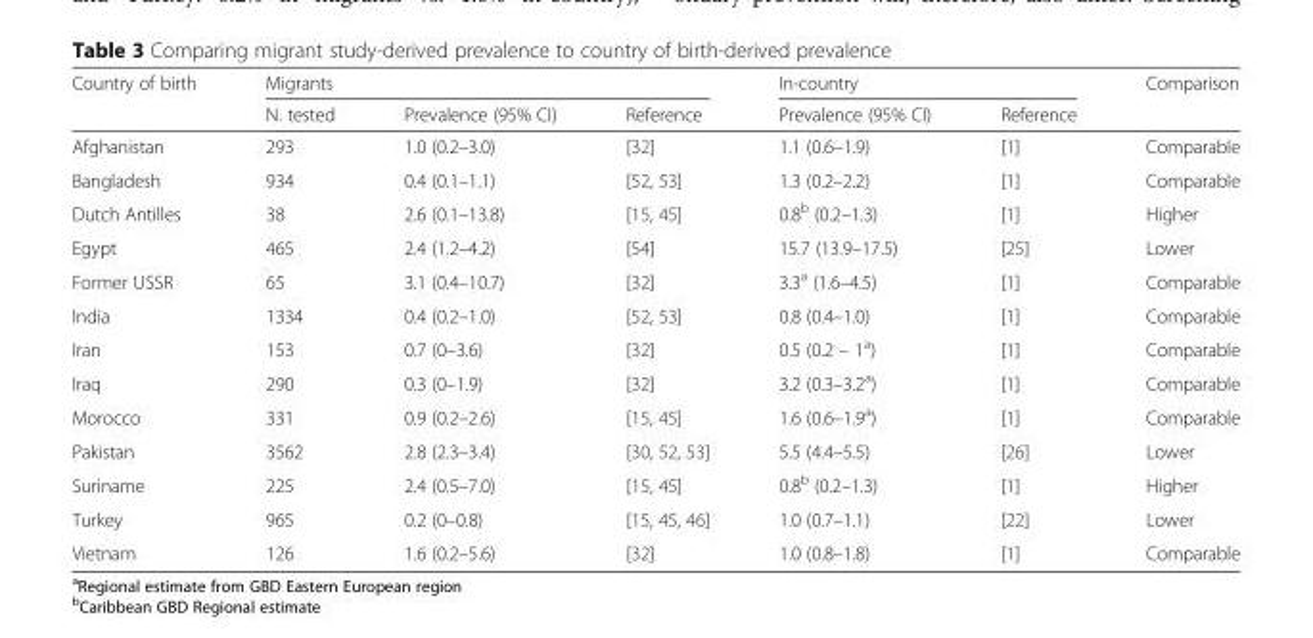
<table><thead><tr><td rowspan="2">Country of birth</td><td colspan="3">Migrants</td><td colspan="2">In-country</td><td rowspan="2">Comparison</td></tr><tr><td>N. tested</td><td>Prevalence (95% CI)</td><td>Reference</td><td>Prevalence (95% CI)</td><td>Reference</td></tr></thead><tbody><tr><td>Afghanistan</td><td>293</td><td>1.0 (0.2–3.0)</td><td>[32]</td><td>1.1 (0.6–1.9)</td><td>[1]</td><td>Comparable</td></tr><tr><td>Bangladesh</td><td>934</td><td>0.4 (0.1–1.1)</td><td>[52, 53]</td><td>1.3 (0.2–2.2)</td><td>[1]</td><td>Comparable</td></tr><tr><td>Dutch Antilles</td><td>38</td><td>2.6 (0.1–13.8)</td><td>[15, 45]</td><td>0.8<sup>b</sup> (0.2–1.3)</td><td>[1]</td><td>Higher</td></tr><tr><td>Egypt</td><td>465</td><td>2.4 (1.2–4.2)</td><td>[54]</td><td>15.7 (13.9–17.5)</td><td>[25]</td><td>Lower</td></tr><tr><td>Former USSR</td><td>65</td><td>3.1 (0.4–10.7)</td><td>[32]</td><td>3.3<sup>a</sup> (1.6–4.5)</td><td>[1]</td><td>Comparable</td></tr><tr><td>India</td><td>1334</td><td>0.4 (0.2–1.0)</td><td>[52, 53]</td><td>0.8 (0.4–1.0)</td><td>[1]</td><td>Comparable</td></tr><tr><td>Iran</td><td>153</td><td>0.7 (0–3.6)</td><td>[32]</td><td>0.5 (0.2 – 1<sup>a</sup>)</td><td>[1]</td><td>Comparable</td></tr><tr><td>Iraq</td><td>290</td><td>0.3 (0–1.9)</td><td>[32]</td><td>3.2 (0.3–3.2<sup>a</sup>)</td><td>[1]</td><td>Comparable</td></tr><tr><td>Morocco</td><td>331</td><td>0.9 (0.2–2.6)</td><td>[15, 45]</td><td>1.6 (0.6–1.9<sup>a</sup>)</td><td>[1]</td><td>Comparable</td></tr><tr><td>Pakistan</td><td>3562</td><td>2.8 (2.3–3.4)</td><td>[30, 52, 53]</td><td>5.5 (4.4–5.5)</td><td>[26]</td><td>Lower</td></tr><tr><td>Suriname</td><td>225</td><td>2.4 (0.5–7.0)</td><td>[15, 45]</td><td>0.8<sup>b</sup> (0.2–1.3)</td><td>[1]</td><td>Higher</td></tr><tr><td>Turkey</td><td>965</td><td>0.2 (0–0.8)</td><td>[15, 45, 46]</td><td>1.0 (0.7–1.1)</td><td>[22]</td><td>Lower</td></tr><tr><td>Vietnam</td><td>126</td><td>1.6 (0.2–5.6)</td><td>[32]</td><td>1.0 (0.8–1.8)</td><td>[1]</td><td>Comparable</td></tr></tbody></table>